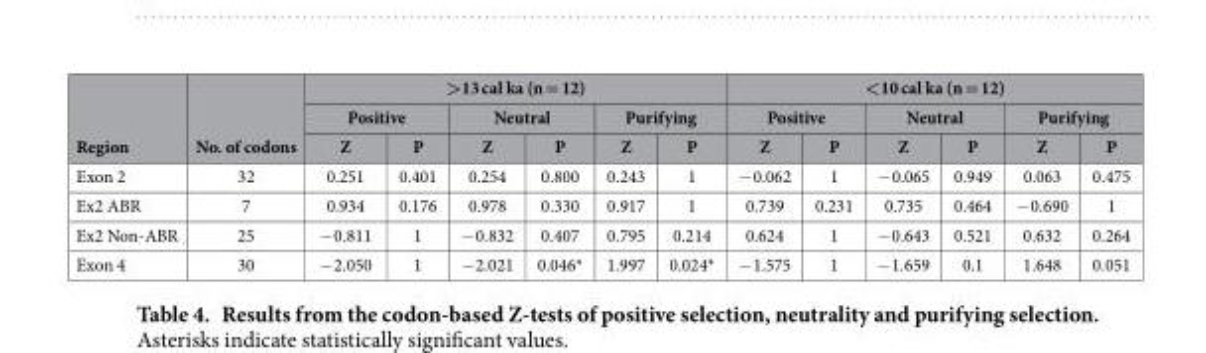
<table><thead><tr><td rowspan="3">Region</td><td rowspan="3">No. of codons</td><td colspan="6">&gt;13 cal ka (n = 12)</td><td colspan="6">&lt;10 cal ka (n = 12)</td></tr><tr><td colspan="2">Positive</td><td colspan="2">Neutral</td><td colspan="2">Purifying</td><td colspan="2">Positive</td><td colspan="2">Neutral</td><td colspan="2">Purifying</td></tr><tr><td>Z</td><td>P</td><td>Z</td><td>P</td><td>Z</td><td>P</td><td>Z</td><td>P</td><td>Z</td><td>P</td><td>Z</td><td>P</td></tr></thead><tbody><tr><td>Exon 2</td><td>32</td><td>0.251</td><td>0.401</td><td>0.254</td><td>0.800</td><td>0.243</td><td>1</td><td>− 0.062</td><td>1</td><td>− 0.065</td><td>0.949</td><td>0.063</td><td>0.475</td></tr><tr><td>Ex2 ABR</td><td>7</td><td>0.934</td><td>0.176</td><td>0.978</td><td>0.330</td><td>0.917</td><td>1</td><td>0.739</td><td>0.231</td><td>0.735</td><td>0.464</td><td>− 0.690</td><td>1</td></tr><tr><td>Ex2 Non-ABR</td><td>25</td><td>− 0.811</td><td>1</td><td>− 0.832</td><td>0.407</td><td>0.795</td><td>0.214</td><td>0.624</td><td>1</td><td>− 0.643</td><td>0.521</td><td>0.632</td><td>0.264</td></tr><tr><td>Exon 4</td><td>30</td><td>− 2.050</td><td>1</td><td>− 2.021</td><td>0.046*</td><td>1.997</td><td>0.024*</td><td>− 1.575</td><td>1</td><td>− 1.659</td><td>0.1</td><td>1.648</td><td>0.051</td></tr></tbody></table>